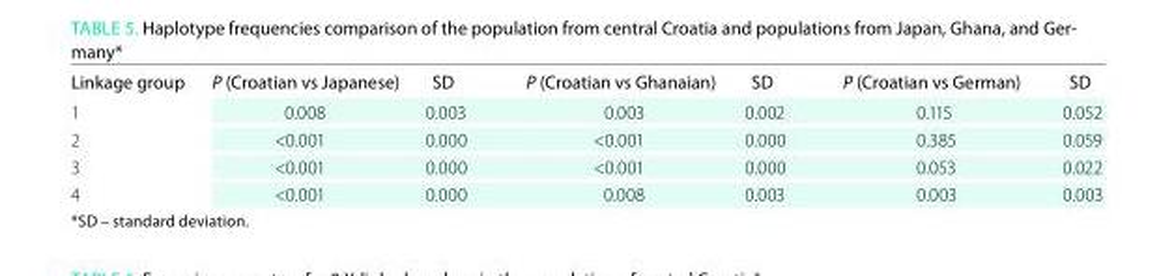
<table><thead><tr><td>linkage group</td><td>P (Croatian vs Japanese)</td><td>SD</td><td>P (Croatian vs Ghanaian)</td><td>SD</td><td>P (Croatian vs German)</td><td>SD</td></tr></thead><tbody><tr><td>1</td><td>0.008</td><td>0.003</td><td>0.003</td><td>0.002</td><td>0.115</td><td>0.052</td></tr><tr><td>2</td><td>&lt;0.001</td><td>0.000</td><td>&lt;0.001</td><td>0.000</td><td>0.385</td><td>0.059</td></tr><tr><td>3</td><td>&lt;0.001</td><td>0.000</td><td>&lt;0.001</td><td>0.000</td><td>0.053</td><td>0.022</td></tr><tr><td>4</td><td>&lt;0.001</td><td>0.000</td><td>0.008</td><td>0.003</td><td>0.003</td><td>0.003</td></tr></tbody></table>